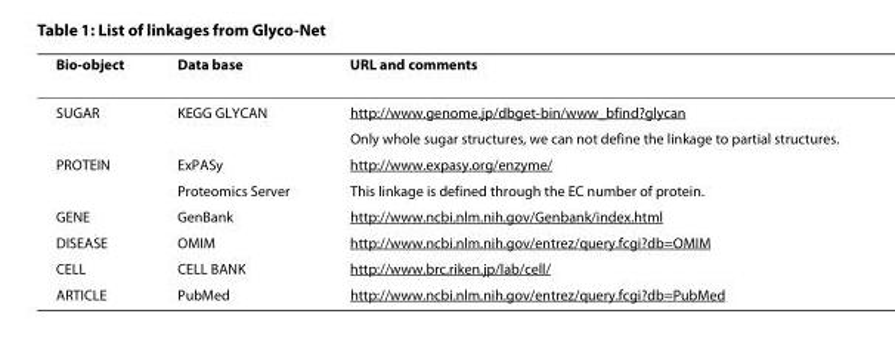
<table><thead><tr><td>Bio-object</td><td>Data base</td><td>URL and comments</td></tr></thead><tbody><tr><td rowspan="2">SUGAR</td><td>KEGG GLYCAN</td><td>http://www.genome.jp/dbget-bin/www_bfind?glycan</td></tr><tr><td></td><td>Only whole sugar structures, we can not define the linkage to partial structures.</td></tr><tr><td rowspan="2">PROTEIN</td><td>ExPASy</td><td>http://www.expasy.org/enzyme/</td></tr><tr><td>Proteomics Server</td><td>This linkage is defined through the EC number of protein.</td></tr><tr><td>GENE</td><td>GenBank</td><td>http://www.ncbi.nlm.nih.gov/Genbank/index.html</td></tr><tr><td>DISEASE</td><td>OMIM</td><td>http://www.ncbi.nlm.nih.gov/entrez/query.fcgi?db=OMIM</td></tr><tr><td>CELL</td><td>CELL BANK</td><td>http://www.brc.riken.jp/lab/cell/</td></tr><tr><td>ARTICLE</td><td>PubMed</td><td>http://www.ncbi.nlm.nih.gov/entrez/query.fcgi?db=PubMed</td></tr></tbody></table>